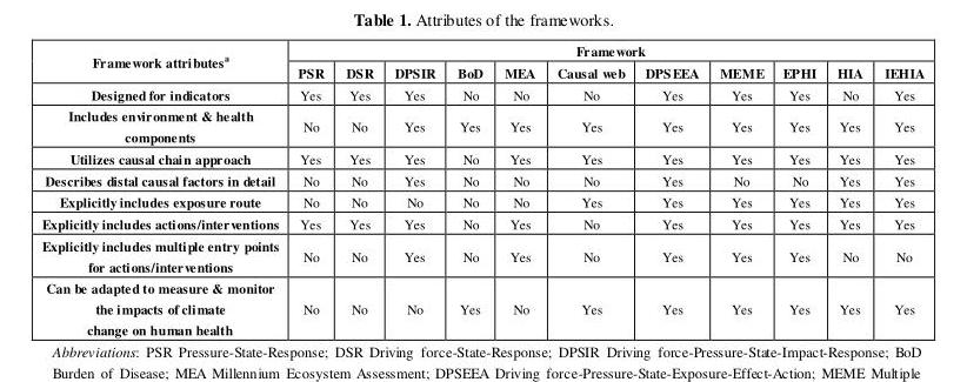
<table><thead><tr><td rowspan="2">Framework attributes<sup>a</sup></td><td colspan="11">Framework</td></tr><tr><td>PSR</td><td>DSR</td><td>DPSIR</td><td>BoD</td><td>MEA</td><td>Causal web</td><td>DPSEEA</td><td>MEME</td><td>EPHI</td><td>HIA</td><td>IEHIA</td></tr></thead><tbody><tr><td>Designed for indicators</td><td>Yes</td><td>Yes</td><td>Yes</td><td>No</td><td>No</td><td>No</td><td>Yes</td><td>Yes</td><td>Yes</td><td>No</td><td>Yes</td></tr><tr><td>Includes environment &amp; health components</td><td>No</td><td>No</td><td>Yes</td><td>Yes</td><td>Yes</td><td>Yes</td><td>Yes</td><td>Yes</td><td>Yes</td><td>Yes</td><td>Yes</td></tr><tr><td>Utilizes causal chain approach</td><td>Yes</td><td>Yes</td><td>Yes</td><td>No</td><td>Yes</td><td>Yes</td><td>Yes</td><td>Yes</td><td>Yes</td><td>Yes</td><td>Yes</td></tr><tr><td>Describes distal causal factors in detail</td><td>No</td><td>No</td><td>Yes</td><td>No</td><td>No</td><td>No</td><td>Yes</td><td>No</td><td>No</td><td>Yes</td><td>Yes</td></tr><tr><td>Explicitly includes exposure route</td><td>No</td><td>No</td><td>No</td><td>No</td><td>No</td><td>Yes</td><td>Yes</td><td>Yes</td><td>Yes</td><td>Yes</td><td>Yes</td></tr><tr><td>Explicitly includes actions/interventions</td><td>Yes</td><td>Yes</td><td>Yes</td><td>No</td><td>Yes</td><td>No</td><td>Yes</td><td>Yes</td><td>Yes</td><td>Yes</td><td>Yes</td></tr><tr><td>Explicitly includes multiple entry points for actions/interventions</td><td>No</td><td>No</td><td>Yes</td><td>No</td><td>Yes</td><td>No</td><td>Yes</td><td>Yes</td><td>Yes</td><td>No</td><td>No</td></tr><tr><td>Can be adapted to measure &amp; monitor the impacts of climate change on human health</td><td>No</td><td>No</td><td>No</td><td>Yes</td><td>No</td><td>Yes</td><td>Yes</td><td>Yes</td><td>Yes</td><td>Yes</td><td>Yes</td></tr></tbody></table>